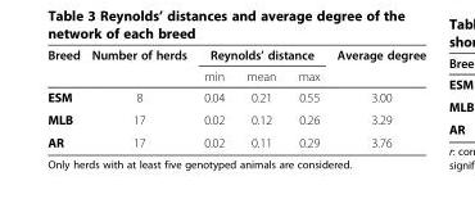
<table><thead><tr><td rowspan="2">Breed</td><td rowspan="2">Number of herds</td><td colspan="3">Reynolds’ distance</td><td rowspan="2">Average degree</td></tr><tr><td>min</td><td>mean</td><td>max</td></tr></thead><tbody><tr><td>ESM</td><td>8</td><td>0.04</td><td>0.21</td><td>0.55</td><td>3.00</td></tr><tr><td>MLB</td><td>17</td><td>0.02</td><td>0.12</td><td>0.26</td><td>3.29</td></tr><tr><td>AR</td><td>17</td><td>0.02</td><td>0.11</td><td>0.29</td><td>3.76</td></tr></tbody></table>